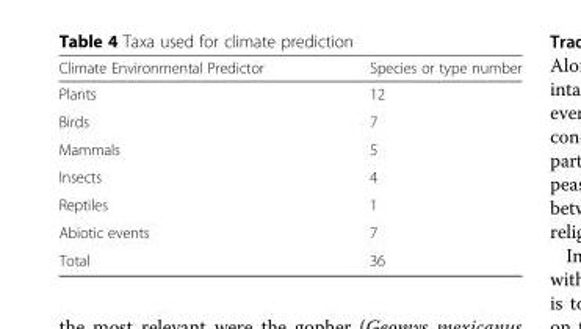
<table><thead><tr><td>Climate Environmental Predictor</td><td>Species or type number</td></tr></thead><tbody><tr><td>Plants</td><td>12</td></tr><tr><td>Birds</td><td>7</td></tr><tr><td>Mammals</td><td>5</td></tr><tr><td>Insects</td><td>4</td></tr><tr><td>Reptiles</td><td>1</td></tr><tr><td>Abiotic events</td><td>7</td></tr><tr><td>Total</td><td>36</td></tr></tbody></table>